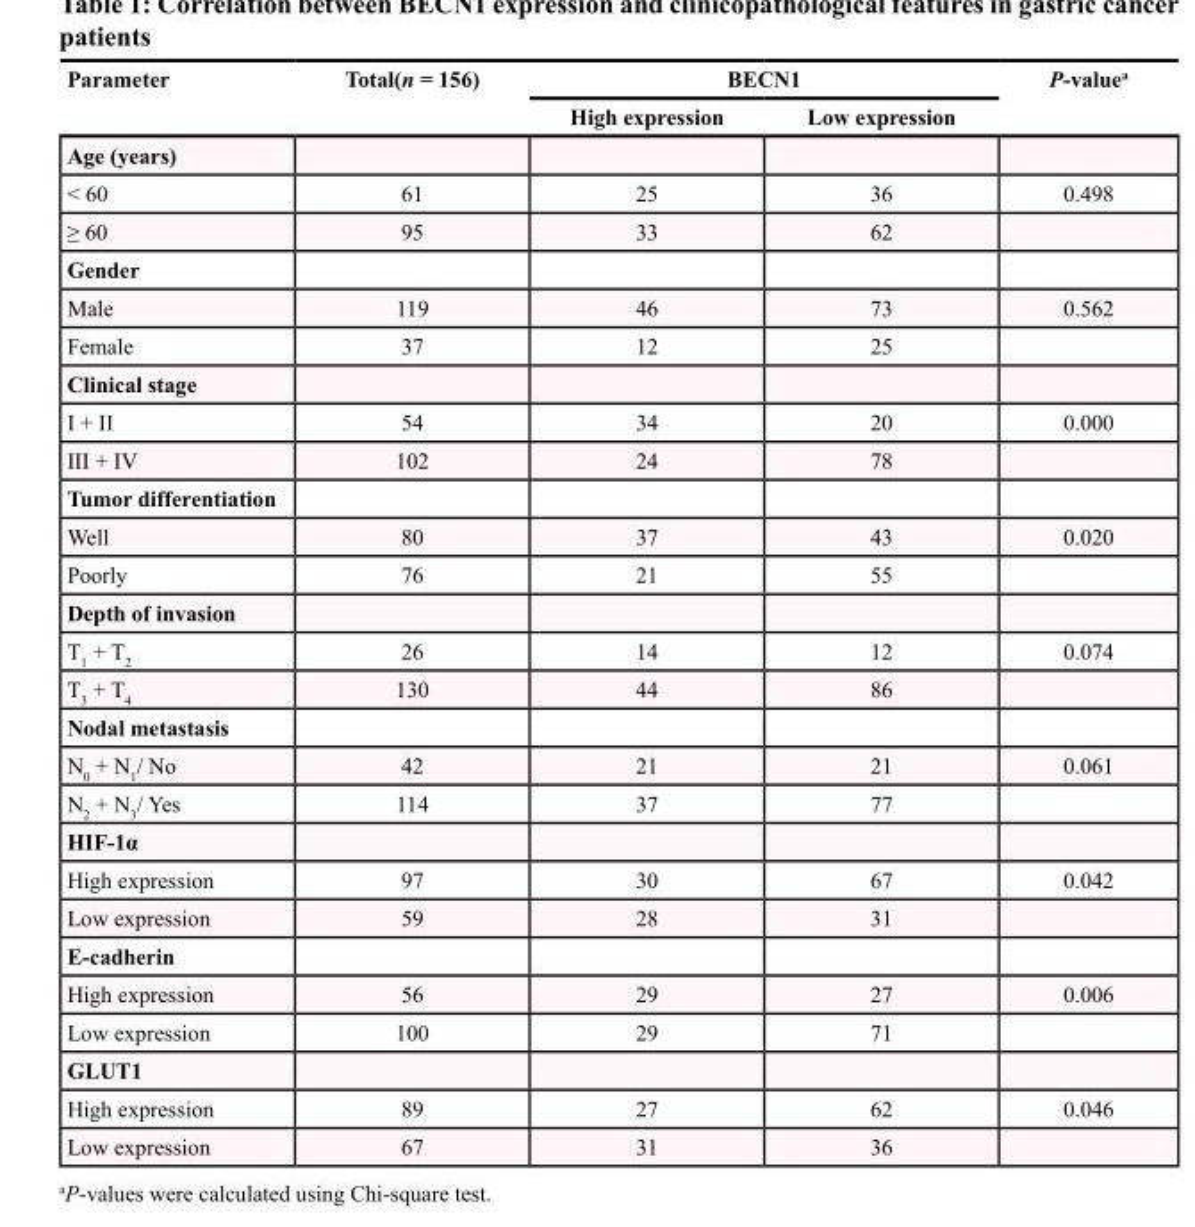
<table><thead><tr><td rowspan="2">Parameter</td><td rowspan="2">Total(n = 156)</td><td colspan="2">BECN1</td><td rowspan="2">P-value<sup>a</sup></td></tr><tr><td>High expression</td><td>Low expression</td></tr></thead><tbody><tr><td colspan="5">Age (years)</td></tr><tr><td>&lt; 60</td><td>61</td><td>25</td><td>36</td><td>0.498</td></tr><tr><td>≥ 60</td><td>95</td><td>33</td><td>62</td><td></td></tr><tr><td colspan="5">Gender</td></tr><tr><td>Male</td><td>119</td><td>46</td><td>73</td><td>0.562</td></tr><tr><td>Female</td><td>37</td><td>12</td><td>25</td><td></td></tr><tr><td colspan="5">Clinical stage</td></tr><tr><td>I + II</td><td>54</td><td>34</td><td>20</td><td>0.000</td></tr><tr><td>III + IV</td><td>102</td><td>24</td><td>78</td><td></td></tr><tr><td colspan="5">Tumor differentiation</td></tr><tr><td>Well</td><td>80</td><td>37</td><td>43</td><td>0.020</td></tr><tr><td>Poorly</td><td>76</td><td>21</td><td>55</td><td></td></tr><tr><td colspan="5">Depth of invasion</td></tr><tr><td>T<sub>1</sub> + T<sub>2</sub></td><td>26</td><td>14</td><td>12</td><td>0.074</td></tr><tr><td>T<sub>3</sub> + T<sub>4</sub></td><td>130</td><td>44</td><td>86</td><td></td></tr><tr><td colspan="5">Nodal metastasis</td></tr><tr><td>N<sub>0</sub> + N<sub>1</sub>/ No</td><td>42</td><td>21</td><td>21</td><td>0.061</td></tr><tr><td>N<sub>2</sub> + N<sub>3</sub>/ Yes</td><td>114</td><td>37</td><td>77</td><td></td></tr><tr><td colspan="5">HIF-1α</td></tr><tr><td>High expression</td><td>97</td><td>30</td><td>67</td><td>0.042</td></tr><tr><td>Low expression</td><td>59</td><td>28</td><td>31</td><td></td></tr><tr><td colspan="5">E-cadherin</td></tr><tr><td>High expression</td><td>56</td><td>29</td><td>27</td><td>0.006</td></tr><tr><td>Low expression</td><td>100</td><td>29</td><td>71</td><td></td></tr><tr><td colspan="5">GLUT1</td></tr><tr><td>High expression</td><td>89</td><td>27</td><td>62</td><td>0.046</td></tr><tr><td>Low expression</td><td>67</td><td>31</td><td>36</td><td></td></tr></tbody></table>